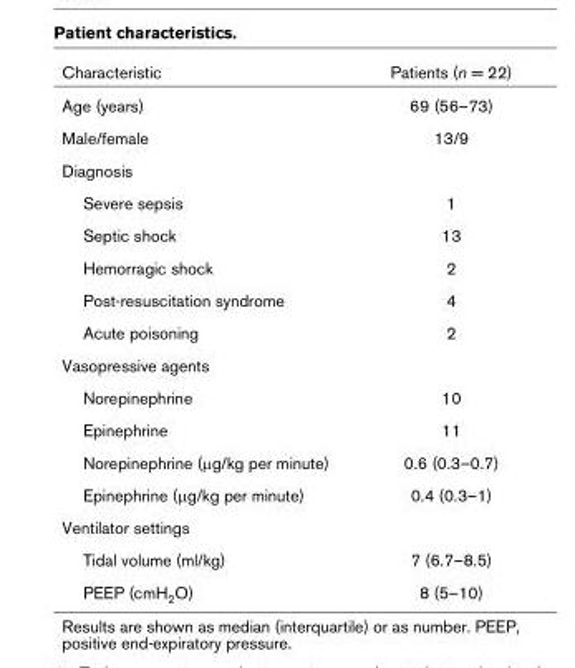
<table><thead><tr><td>Characteristic</td><td>Patients (n = 22)</td></tr></thead><tbody><tr><td>Age (years)</td><td>69 (56–73)</td></tr><tr><td>Male/female</td><td>13/9</td></tr><tr><td colspan="2">Diagnosis</td></tr><tr><td>Severe sepsis</td><td>1</td></tr><tr><td>Septic shock</td><td>13</td></tr><tr><td>Hemorragic shock</td><td>2</td></tr><tr><td>Post-resuscitation syndrome</td><td>4</td></tr><tr><td>Acute poisoning</td><td>2</td></tr><tr><td colspan="2">Vasopressive agents</td></tr><tr><td>Norepinephrine</td><td>10</td></tr><tr><td>Epinephrine</td><td>11</td></tr><tr><td>Norepinephrine (µg/kg per minute)</td><td>0.6 (0.3–0.7)</td></tr><tr><td>Epinephrine (µg/kg per minute)</td><td>0.4 (0.3–1)</td></tr><tr><td colspan="2">Ventilator settings</td></tr><tr><td>Tidal volume (ml/kg)</td><td>7 (6.7–8.5)</td></tr><tr><td>PEEP (cmH2O)</td><td>8 (5–10)</td></tr></tbody></table>